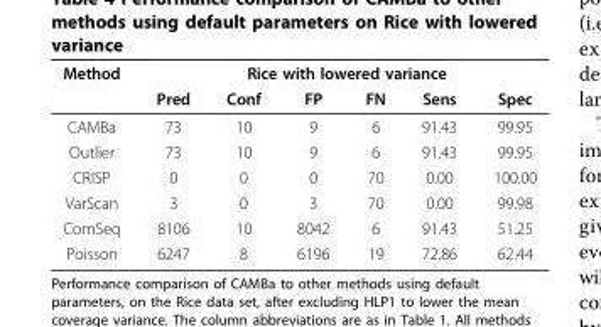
<table><thead><tr><td rowspan="2">Method</td><td colspan="6">Rice with lowered variance</td></tr><tr><td>Pred</td><td>Conf</td><td>FP</td><td>FN</td><td>Sens</td><td>Spec</td></tr></thead><tbody><tr><td>CAMBa</td><td>73</td><td>10</td><td>9</td><td>6</td><td>91.43</td><td>99.95</td></tr><tr><td>Outlier</td><td>73</td><td>10</td><td>9</td><td>6</td><td>91.43</td><td>99.95</td></tr><tr><td>CRISP</td><td>0</td><td>0</td><td>0</td><td>70</td><td>0.00</td><td>100.00</td></tr><tr><td>VarScan</td><td>3</td><td>0</td><td>3</td><td>70</td><td>0.00</td><td>99.98</td></tr><tr><td>ComSeq</td><td>8106</td><td>10</td><td>8042</td><td>6</td><td>91.43</td><td>51.25</td></tr><tr><td>Poisson</td><td>6247</td><td>8</td><td>6196</td><td>19</td><td>72.86</td><td>62.44</td></tr></tbody></table>